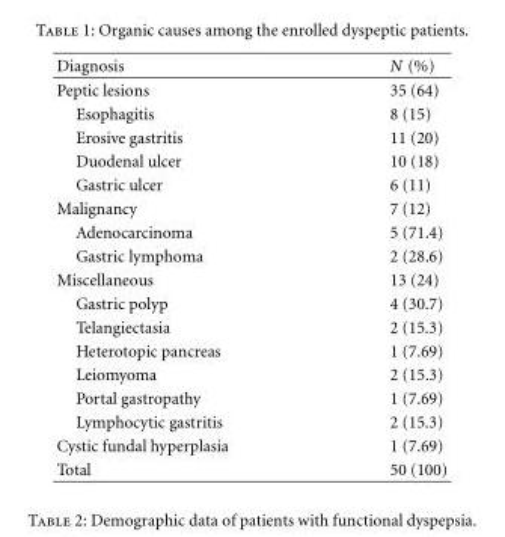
<table><thead><tr><td>Diagnosis</td><td>N (%)</td></tr></thead><tbody><tr><td>Peptic lesions</td><td>35 (64)</td></tr><tr><td>Esophagitis</td><td>8 (15)</td></tr><tr><td>Erosive gastritis</td><td>11 (20)</td></tr><tr><td>Duodenal ulcer</td><td>10 (18)</td></tr><tr><td>Gastric ulcer</td><td>6 (11)</td></tr><tr><td>Malignancy</td><td>7 (12)</td></tr><tr><td>Adenocarcinoma</td><td>5 (71.4)</td></tr><tr><td>Gastric lymphoma</td><td>2 (28.6)</td></tr><tr><td>Miscellaneous</td><td>13 (24)</td></tr><tr><td>Gastric polyp</td><td>4 (30.7)</td></tr><tr><td>Telangiectasia</td><td>2 (15.3)</td></tr><tr><td>Heterotopic pancreas</td><td>1 (7.69)</td></tr><tr><td>Leiomyoma</td><td>2 (15.3)</td></tr><tr><td>Portal gastropathy</td><td>1 (7.69)</td></tr><tr><td>Lymphocytic gastritis</td><td>2 (15.3)</td></tr><tr><td>Cystic fundal hyperplasia</td><td>1 (7.69)</td></tr><tr><td>Total</td><td>50 (100)</td></tr></tbody></table>